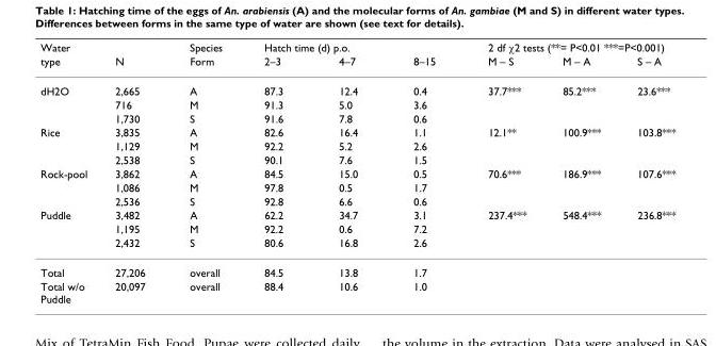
<table><thead><tr><td rowspan="2">Water type</td><td rowspan="2">N</td><td rowspan="2">Species Form</td><td colspan="3">Hatch time (d) p.o.</td><td colspan="3">2 df χ2 tests (**= P&lt;0.01 ***=P&lt;0.001)</td></tr><tr><td>2–3</td><td>4–7</td><td>8–15</td><td>M – S</td><td>M – A</td><td>S – A</td></tr></thead><tbody><tr><td rowspan="3">dH2O</td><td>2,665</td><td>A</td><td>87.3</td><td>12.4</td><td>0.4</td><td>37.7***</td><td>85.2***</td><td>23.6***</td></tr><tr><td>716</td><td>M</td><td>91.3</td><td>5.0</td><td>3.6</td><td></td><td></td><td></td></tr><tr><td>1,730</td><td>S</td><td>91.6</td><td>7.8</td><td>0.6</td><td></td><td></td><td></td></tr><tr><td rowspan="3">Rice</td><td>3,835</td><td>A</td><td>82.6</td><td>16.4</td><td>1.1</td><td>12.1**</td><td>100.9***</td><td>103.8***</td></tr><tr><td>1,129</td><td>M</td><td>92.2</td><td>5.2</td><td>2.6</td><td></td><td></td><td></td></tr><tr><td>2,538</td><td>S</td><td>90.1</td><td>7.6</td><td>1.5</td><td></td><td></td><td></td></tr><tr><td rowspan="3">Rock-pool</td><td>3,862</td><td>A</td><td>84.5</td><td>15.0</td><td>0.5</td><td>70.6***</td><td>186.9***</td><td>107.6***</td></tr><tr><td>1,086</td><td>M</td><td>97.8</td><td>0.5</td><td>1.7</td><td></td><td></td><td></td></tr><tr><td>2,536</td><td>S</td><td>92.8</td><td>6.6</td><td>0.6</td><td></td><td></td><td></td></tr><tr><td rowspan="3">Puddle</td><td>3,482</td><td>A</td><td>62.2</td><td>34.7</td><td>3.1</td><td>237.4***</td><td>548.4***</td><td>236.8***</td></tr><tr><td>1,195</td><td>M</td><td>92.2</td><td>0.6</td><td>7.2</td><td></td><td></td><td></td></tr><tr><td>2,432</td><td>S</td><td>80.6</td><td>16.8</td><td>2.6</td><td></td><td></td><td></td></tr><tr><td>Total</td><td>27,206</td><td>overall</td><td>84.5</td><td>13.8</td><td>1.7</td><td></td><td></td><td></td></tr><tr><td>Total w/o Puddle</td><td>20,097</td><td>overall</td><td>88.4</td><td>10.6</td><td>1.0</td><td></td><td></td><td></td></tr></tbody></table>